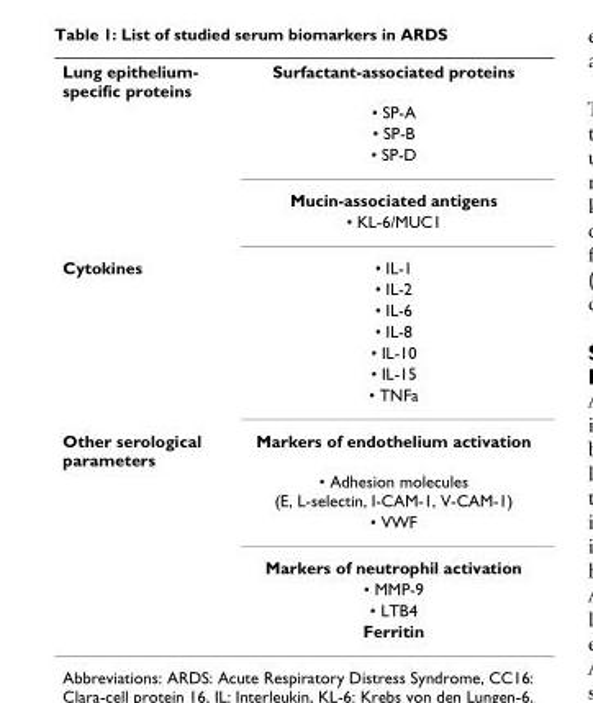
<table><tbody><tr><td rowspan="6">Lung epithelium- specific proteins</td><td>Surfactant-associated proteins</td></tr><tr><td>• SP-A</td></tr><tr><td>• SP-B</td></tr><tr><td>• SP-D</td></tr><tr><td>Mucin-associated antigens</td></tr><tr><td>• KL-6/MUC1</td></tr><tr><td rowspan="7">Cytokines</td><td>• IL-1</td></tr><tr><td>• IL-2</td></tr><tr><td>• IL-6</td></tr><tr><td>• IL-8</td></tr><tr><td>• IL-10</td></tr><tr><td>• IL-15</td></tr><tr><td>• TNFa</td></tr><tr><td rowspan="7">Other serological parameters</td><td>Markers of endothelium activation</td></tr><tr><td>• Adhesion molecules (E, L-selectin, I-CAM-1, V-CAM-1)</td></tr><tr><td>• VWF</td></tr><tr><td>Markers of neutrophil activation</td></tr><tr><td>• MMP-9</td></tr><tr><td>• LTB4</td></tr><tr><td>Ferritin</td></tr></tbody></table>